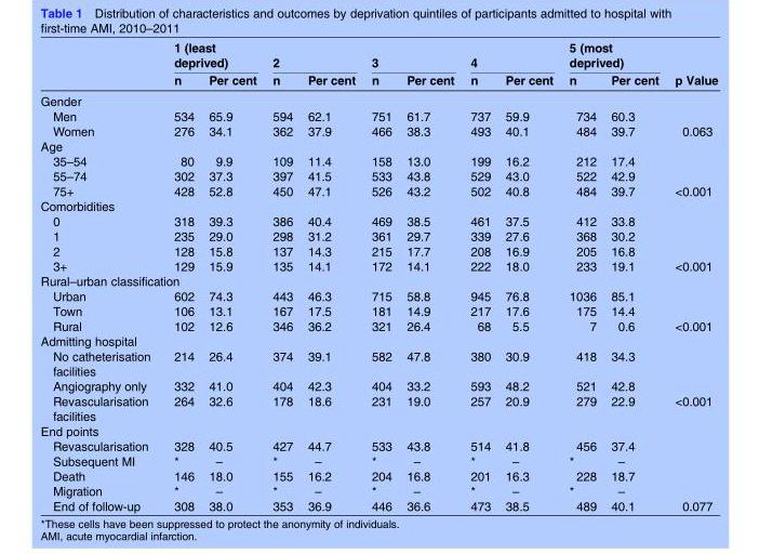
<table><thead><tr><td rowspan="2"></td><td colspan="2">1 (least deprived)</td><td colspan="2">2</td><td colspan="2">3</td><td colspan="2">4</td><td colspan="2">5 (most deprived)</td><td rowspan="2">p Value</td></tr><tr><td>n</td><td>Per cent</td><td>n</td><td>Per cent</td><td>n</td><td>Per cent</td><td>n</td><td>Per cent</td><td>n</td><td>Per cent</td></tr></thead><tbody><tr><td colspan="12">Gender</td></tr><tr><td>Men</td><td>534</td><td>65.9</td><td>594</td><td>62.1</td><td>751</td><td>61.7</td><td>737</td><td>59.9</td><td>734</td><td>60.3</td><td></td></tr><tr><td>Women</td><td>276</td><td>34.1</td><td>362</td><td>37.9</td><td>466</td><td>38.3</td><td>493</td><td>40.1</td><td>484</td><td>39.7</td><td>0.063</td></tr><tr><td colspan="12">Age</td></tr><tr><td>35–54</td><td>80</td><td>9.9</td><td>109</td><td>11.4</td><td>158</td><td>13.0</td><td>199</td><td>16.2</td><td>212</td><td>17.4</td><td></td></tr><tr><td>55–74</td><td>302</td><td>37.3</td><td>397</td><td>41.5</td><td>533</td><td>43.8</td><td>529</td><td>43.0</td><td>522</td><td>42.9</td><td></td></tr><tr><td>75+</td><td>428</td><td>52.8</td><td>450</td><td>47.1</td><td>526</td><td>43.2</td><td>502</td><td>40.8</td><td>484</td><td>39.7</td><td>&lt;0.001</td></tr><tr><td colspan="12">Comorbidities</td></tr><tr><td>0</td><td>318</td><td>39.3</td><td>386</td><td>40.4</td><td>469</td><td>38.5</td><td>461</td><td>37.5</td><td>412</td><td>33.8</td><td></td></tr><tr><td>1</td><td>235</td><td>29.0</td><td>298</td><td>31.2</td><td>361</td><td>29.7</td><td>339</td><td>27.6</td><td>368</td><td>30.2</td><td></td></tr><tr><td>2</td><td>128</td><td>15.8</td><td>137</td><td>14.3</td><td>215</td><td>17.7</td><td>208</td><td>16.9</td><td>205</td><td>16.8</td><td></td></tr><tr><td>3+</td><td>129</td><td>15.9</td><td>135</td><td>14.1</td><td>172</td><td>14.1</td><td>222</td><td>18.0</td><td>233</td><td>19.1</td><td>&lt;0.001</td></tr><tr><td colspan="12">Rural–urban classification</td></tr><tr><td>Urban</td><td>602</td><td>74.3</td><td>443</td><td>46.3</td><td>715</td><td>58.8</td><td>945</td><td>76.8</td><td>1036</td><td>85.1</td><td></td></tr><tr><td>Town</td><td>106</td><td>13.1</td><td>167</td><td>17.5</td><td>181</td><td>14.9</td><td>217</td><td>17.6</td><td>175</td><td>14.4</td><td></td></tr><tr><td>Rural</td><td>102</td><td>12.6</td><td>346</td><td>36.2</td><td>321</td><td>26.4</td><td>68</td><td>5.5</td><td>7</td><td>0.6</td><td>&lt;0.001</td></tr><tr><td colspan="12">Admitting hospital</td></tr><tr><td>No catheterisation facilities</td><td>214</td><td>26.4</td><td>374</td><td>39.1</td><td>582</td><td>47.8</td><td>380</td><td>30.9</td><td>418</td><td>34.3</td><td></td></tr><tr><td>Angiography only</td><td>332</td><td>41.0</td><td>404</td><td>42.3</td><td>404</td><td>33.2</td><td>593</td><td>48.2</td><td>521</td><td>42.8</td><td></td></tr><tr><td>Revascularisation facilities</td><td>264</td><td>32.6</td><td>178</td><td>18.6</td><td>231</td><td>19.0</td><td>257</td><td>20.9</td><td>279</td><td>22.9</td><td>&lt;0.001</td></tr><tr><td colspan="12">End points</td></tr><tr><td>Revascularisation</td><td>328</td><td>40.5</td><td>427</td><td>44.7</td><td>533</td><td>43.8</td><td>514</td><td>41.8</td><td>456</td><td>37.4</td><td></td></tr><tr><td>Subsequent MI</td><td>*</td><td>–</td><td>*</td><td>–</td><td>*</td><td>–</td><td>*</td><td>–</td><td>*</td><td>–</td><td></td></tr><tr><td>Death</td><td>146</td><td>18.0</td><td>155</td><td>16.2</td><td>204</td><td>16.8</td><td>201</td><td>16.3</td><td>228</td><td>18.7</td><td></td></tr><tr><td>Migration</td><td>*</td><td>–</td><td>*</td><td>–</td><td>*</td><td>–</td><td>*</td><td>–</td><td>*</td><td>–</td><td></td></tr><tr><td>End of follow-up</td><td>308</td><td>38.0</td><td>353</td><td>36.9</td><td>446</td><td>36.6</td><td>473</td><td>38.5</td><td>489</td><td>40.1</td><td>0.077</td></tr></tbody></table>